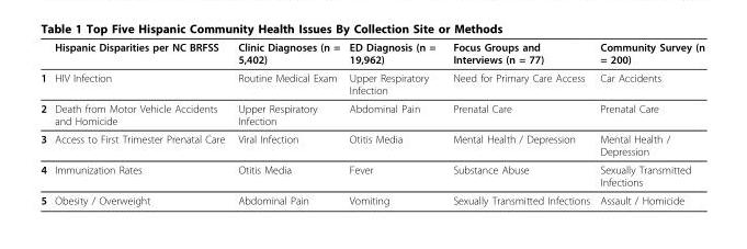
<table><thead><tr><td></td><td>Hispanic Disparities per NC BRFSS</td><td>Clinic Diagnoses (n = 5,402)</td><td>ED Diagnosis (n = 19,962)</td><td>Focus Groups and Interviews (n = 77)</td><td>Community Survey (n = 200)</td></tr></thead><tbody><tr><td>1</td><td>HIV Infection</td><td>Routine Medical Exam</td><td>Upper Respiratory Infection</td><td>Need for Primary Care Access</td><td>Car Accidents</td></tr><tr><td>2</td><td>Death from Motor Vehicle Accidents and Homicide</td><td>Upper Respiratory Infection</td><td>Abdominal Pain</td><td>Prenatal Care</td><td>Prenatal Care</td></tr><tr><td>3</td><td>Access to First Trimester Prenatal Care</td><td>Viral Infection</td><td>Otitis Media</td><td>Mental Health / Depression</td><td>Mental Health / Depression</td></tr><tr><td>4</td><td>Immunization Rates</td><td>Otitis Media</td><td>Fever</td><td>Substance Abuse</td><td>Sexually Transmitted Infections</td></tr><tr><td>5</td><td>Obesity / Overweight</td><td>Abdominal Pain</td><td>Vomiting</td><td>Sexually Transmitted Infections</td><td>Assault / Homicide</td></tr></tbody></table>